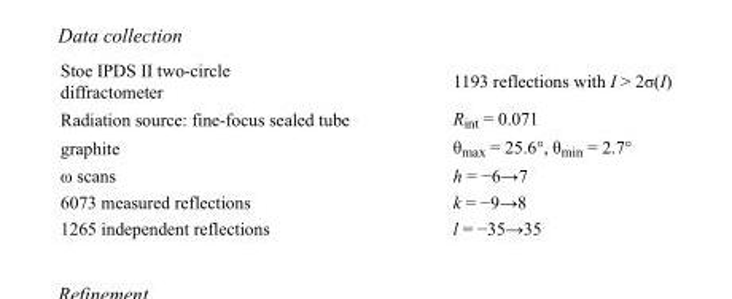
<table><tbody><tr><td>Stoe IPDS II two-circle diffractometer</td><td>1193 reflections with I &gt; 2σ(I)</td></tr><tr><td>Radiation source: fine-focus sealed tube</td><td>R<sub>int</sub> = 0.071</td></tr><tr><td>graphite</td><td>θ<sub>max</sub> = 25.6°, θ<sub>min</sub> = 2.7°</td></tr><tr><td>ω scans</td><td>h = −6→7</td></tr><tr><td>6073 measured reflections</td><td>k = −9→8</td></tr><tr><td>1265 independent reflections</td><td>l = −35→35</td></tr></tbody></table>